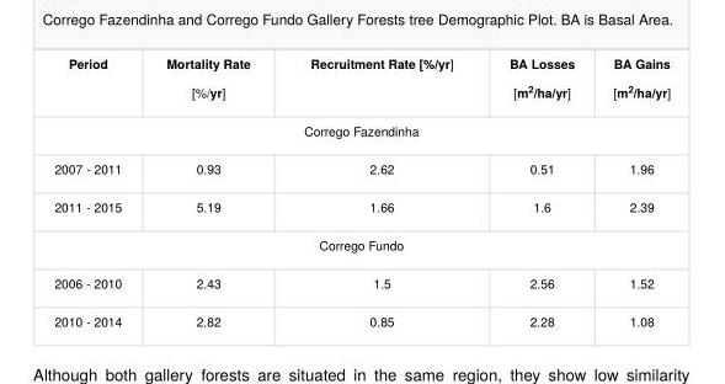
<table><tbody><tr><td>Period</td><td>Mortality Rate [%/yr]</td><td>Recruitment Rate [%/yr]</td><td>BA Losses [m /ha/yr] 2</td><td>BA Gains [m /ha/yr] 2</td></tr><tr><td colspan="5">Corrego Fazendinha</td></tr><tr><td>2007 - 2011</td><td>0.93</td><td>2.62</td><td>0.51</td><td>1.96</td></tr><tr><td>2011 - 2015</td><td>5.19</td><td>1.66</td><td>1.6</td><td>2.39</td></tr><tr><td colspan="5">Corrego Fundo</td></tr><tr><td>2006 - 2010</td><td>2.43</td><td>1.5</td><td>2.56</td><td>1.52</td></tr><tr><td>2010 - 2014</td><td>2.82</td><td>0.85</td><td>2.28</td><td>1.08</td></tr></tbody></table>